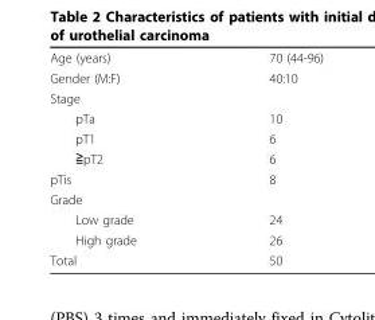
<table><tbody><tr><td>Age (years)</td><td>70 (44-96)</td></tr><tr><td>Gender (M:F)</td><td>40:10</td></tr><tr><td colspan="2">Stage</td></tr><tr><td>pTa</td><td>10</td></tr><tr><td>pT1</td><td>6</td></tr><tr><td>≧pT2</td><td>6</td></tr><tr><td>pTis</td><td>8</td></tr><tr><td colspan="2">Grade</td></tr><tr><td>Low grade</td><td>24</td></tr><tr><td>High grade</td><td>26</td></tr><tr><td>Total</td><td>50</td></tr></tbody></table>